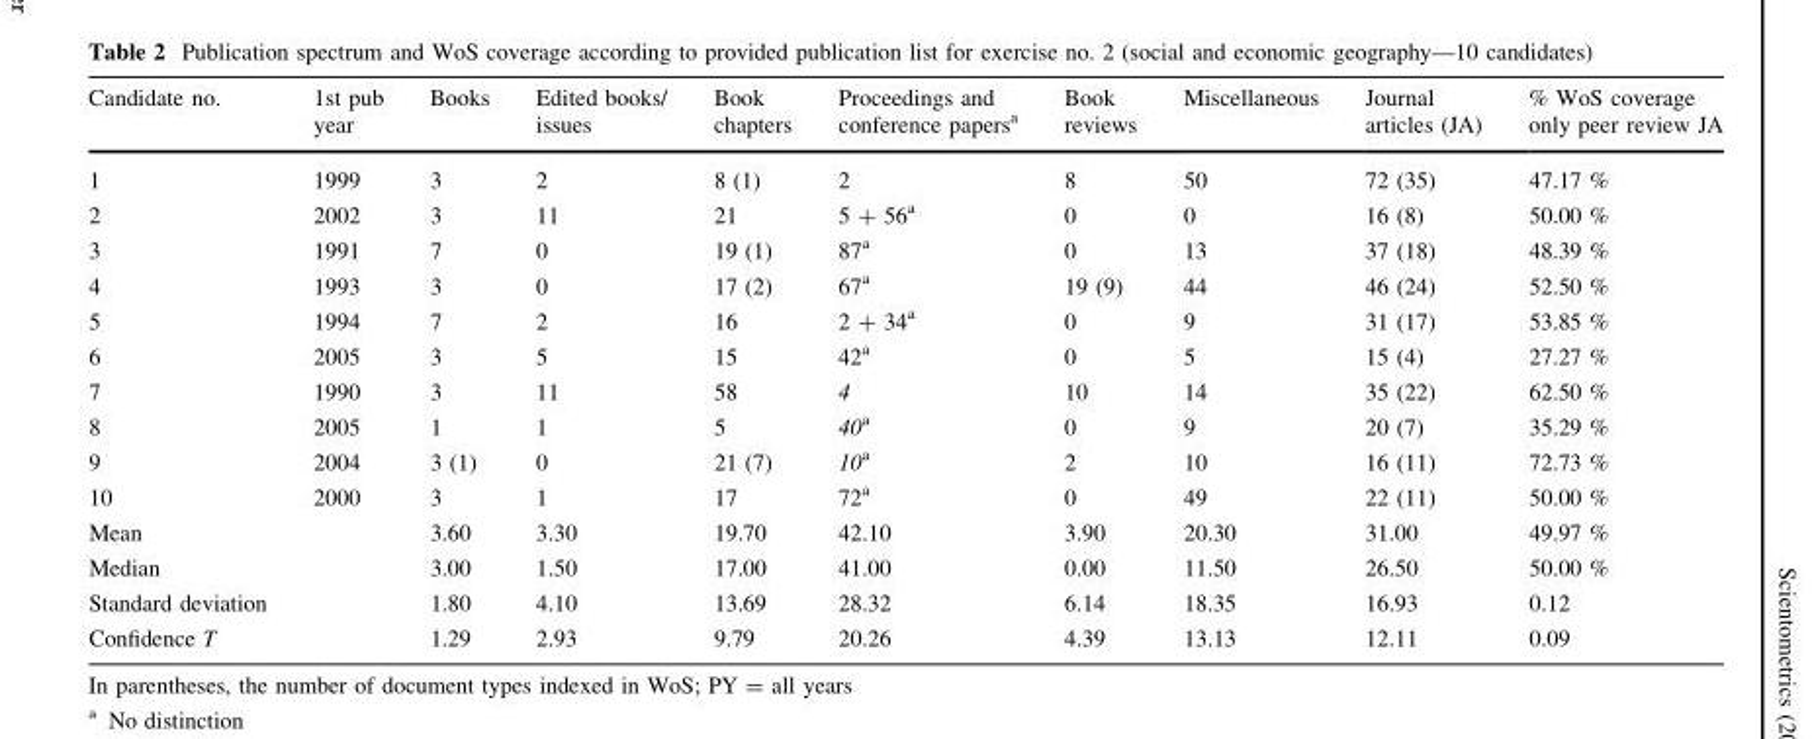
<table><thead><tr><td>Candidate no.</td><td>1st pub year</td><td>Books</td><td>Edited books/ issues</td><td>Book chapters</td><td>Proceedings and conference papers<sup>a</sup></td><td>Book reviews</td><td>Miscellaneous</td><td>Journal articles (JA)</td><td>% WoS coverage only peer review JA</td></tr></thead><tbody><tr><td>1</td><td>1999</td><td>3</td><td>2</td><td>8 (1)</td><td>2</td><td>8</td><td>50</td><td>72 (35)</td><td>47.17 %</td></tr><tr><td>2</td><td>2002</td><td>3</td><td>11</td><td>21</td><td>5 + 56<sup>a</sup></td><td>0</td><td>0</td><td>16 (8)</td><td>50.00 %</td></tr><tr><td>3</td><td>1991</td><td>7</td><td>0</td><td>19 (1)</td><td>87<sup>a</sup></td><td>0</td><td>13</td><td>37 (18)</td><td>48.39 %</td></tr><tr><td>4</td><td>1993</td><td>3</td><td>0</td><td>17 (2)</td><td>67<sup>a</sup></td><td>19 (9)</td><td>44</td><td>46 (24)</td><td>52.50 %</td></tr><tr><td>5</td><td>1994</td><td>7</td><td>2</td><td>16</td><td>2 + 34<sup>a</sup></td><td>0</td><td>9</td><td>31 (17)</td><td>53.85 %</td></tr><tr><td>6</td><td>2005</td><td>3</td><td>5</td><td>15</td><td>42<sup>a</sup></td><td>0</td><td>5</td><td>15 (4)</td><td>27.27 %</td></tr><tr><td>7</td><td>1990</td><td>3</td><td>11</td><td>58</td><td>4</td><td>10</td><td>14</td><td>35 (22)</td><td>62.50 %</td></tr><tr><td>8</td><td>2005</td><td>1</td><td>1</td><td>5</td><td>40<sup>a</sup></td><td>0</td><td>9</td><td>20 (7)</td><td>35.29 %</td></tr><tr><td>9</td><td>2004</td><td>3 (1)</td><td>0</td><td>21 (7)</td><td>10<sup>a</sup></td><td>2</td><td>10</td><td>16 (11)</td><td>72.73 %</td></tr><tr><td>10</td><td>2000</td><td>3</td><td>1</td><td>17</td><td>72<sup>a</sup></td><td>0</td><td>49</td><td>22 (11)</td><td>50.00 %</td></tr><tr><td>Mean</td><td></td><td>3.60</td><td>3.30</td><td>19.70</td><td>42.10</td><td>3.90</td><td>20.30</td><td>31.00</td><td>49.97 %</td></tr><tr><td>Median</td><td></td><td>3.00</td><td>1.50</td><td>17.00</td><td>41.00</td><td>0.00</td><td>11.50</td><td>26.50</td><td>50.00 %</td></tr><tr><td>Standard deviation</td><td></td><td>1.80</td><td>4.10</td><td>13.69</td><td>28.32</td><td>6.14</td><td>18.35</td><td>16.93</td><td>0.12</td></tr><tr><td>Confidence T</td><td></td><td>1.29</td><td>2.93</td><td>9.79</td><td>20.26</td><td>4.39</td><td>13.13</td><td>12.11</td><td>0.09</td></tr></tbody></table>